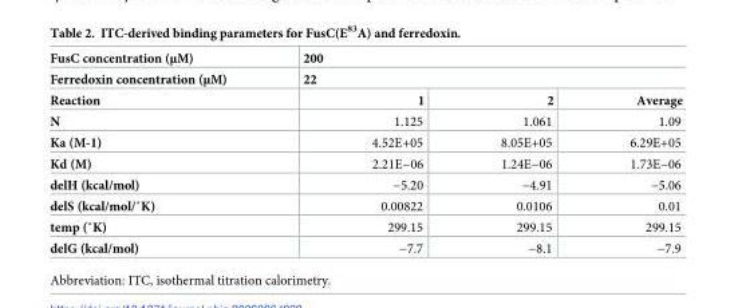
<table><thead><tr><td rowspan="3">FusC concentration (μM) Ferredoxin concentration (μM) Reaction</td><td rowspan="2" colspan="3">200 22</td></tr><tr></tr><tr><td>1</td><td>2</td><td>Average</td></tr></thead><tbody><tr><td>N</td><td>1.125</td><td>1.061</td><td>1.09</td></tr><tr><td>Ka (M-1)</td><td>4.52E+05</td><td>8.05E+05</td><td>6.29E+05</td></tr><tr><td>Kd (M)</td><td>2.21E−06</td><td>1.24E−06</td><td>1.73E−06</td></tr><tr><td>delH (kcal/mol)</td><td>−5.20</td><td>−4.91</td><td>−5.06</td></tr><tr><td>delS (kcal/mol/˚K)</td><td>0.00822</td><td>0.0106</td><td>0.01</td></tr><tr><td>temp (˚K)</td><td>299.15</td><td>299.15</td><td>299.15</td></tr><tr><td>delG (kcal/mol)</td><td>−7.7</td><td>−8.1</td><td>−7.9</td></tr></tbody></table>